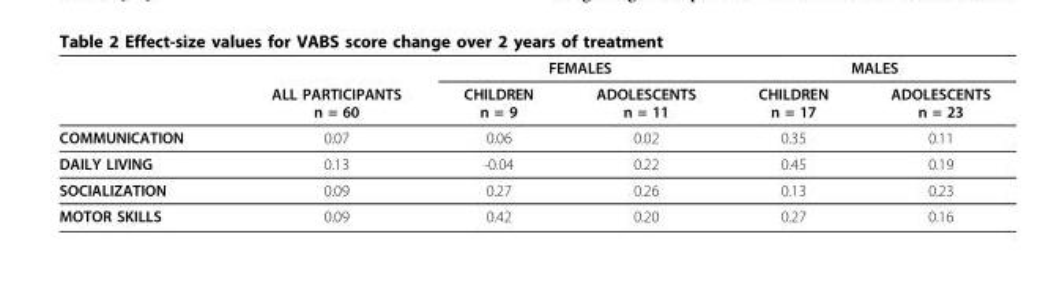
<table><thead><tr><td rowspan="2"></td><td rowspan="2">ALL PARTICIPANTS n = 60</td><td colspan="2">FEMALES</td><td colspan="2">MALES</td></tr><tr><td>CHILDREN n = 9</td><td>ADOLESCENTS n = 11</td><td>CHILDREN n = 17</td><td>ADOLESCENTS n = 23</td></tr></thead><tbody><tr><td>COMMUNICATION</td><td>0.07</td><td>0.06</td><td>0.02</td><td>0.35</td><td>0.11</td></tr><tr><td>DAILY LIVING</td><td>0.13</td><td>-0.04</td><td>0.22</td><td>0.45</td><td>0.19</td></tr><tr><td>SOCIALIZATION</td><td>0.09</td><td>0.27</td><td>0.26</td><td>0.13</td><td>0.23</td></tr><tr><td>MOTOR SKILLS</td><td>0.09</td><td>0.42</td><td>0.20</td><td>0.27</td><td>0.16</td></tr></tbody></table>